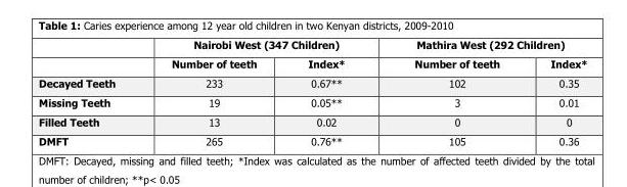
<table><thead><tr><td rowspan="2"></td><td colspan="2">Nairobi West (347 Children)</td><td colspan="2">Mathira West (292 Children)</td></tr><tr><td>Number of teeth</td><td>Index*</td><td>Number of teeth</td><td>Index*</td></tr></thead><tbody><tr><td>Decayed Teeth</td><td>233</td><td>0.67**</td><td>102</td><td>0.35</td></tr><tr><td>Missing Teeth</td><td>19</td><td>0.05**</td><td>3</td><td>0.01</td></tr><tr><td>Filled Teeth</td><td>13</td><td>0.02</td><td>0</td><td>0</td></tr><tr><td>DMFT</td><td>265</td><td>0.76**</td><td>105</td><td>0.36</td></tr></tbody></table>